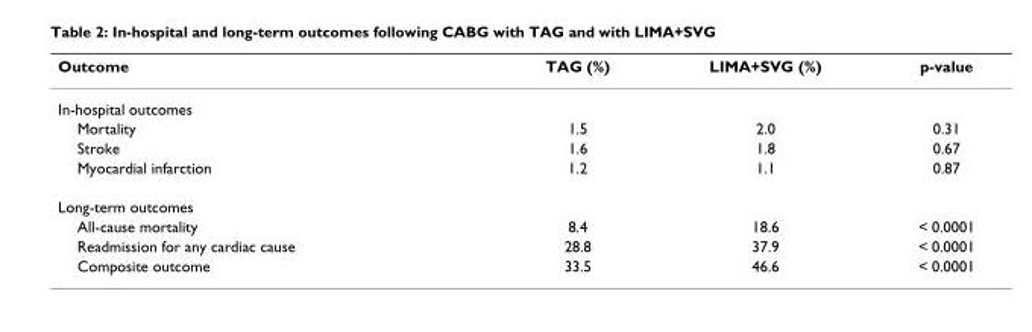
<table><thead><tr><td>Outcome</td><td>TAG (%)</td><td>LIMA+SVG (%)</td><td>p-value</td></tr></thead><tbody><tr><td colspan="4">In-hospital outcomes</td></tr><tr><td>Mortality</td><td>1.5</td><td>2.0</td><td>0.31</td></tr><tr><td>Stroke</td><td>1.6</td><td>1.8</td><td>0.67</td></tr><tr><td>Myocardial infarction</td><td>1.2</td><td>1.1</td><td>0.87</td></tr><tr><td colspan="4">Long-term outcomes</td></tr><tr><td>All-cause mortality</td><td>8.4</td><td>18.6</td><td>&lt; 0.0001</td></tr><tr><td>Readmission for any cardiac cause</td><td>28.8</td><td>37.9</td><td>&lt; 0.0001</td></tr><tr><td>Composite outcome</td><td>33.5</td><td>46.6</td><td>&lt; 0.0001</td></tr></tbody></table>